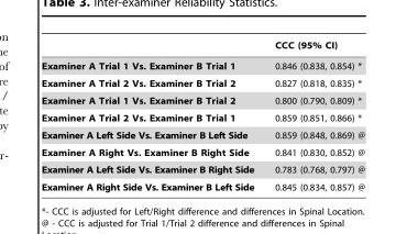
<table><thead><tr><td></td><td>CCC (95% CI)</td></tr></thead><tbody><tr><td>Examiner A Trial 1 Vs. Examiner B Trial 1</td><td>0.846 (0.838, 0.854) *</td></tr><tr><td>Examiner A Trial 2 Vs. Examiner B Trial 2</td><td>0.827 (0.818, 0.835) *</td></tr><tr><td>Examiner A Trial 1 Vs. Examiner B Trial 2</td><td>0.800 (0.790, 0.809) *</td></tr><tr><td>Examiner A Trial 2 Vs. Examiner B Trial 1</td><td>0.859 (0.851, 0.866) *</td></tr><tr><td>Examiner A Left Side Vs. Examiner B Left Side</td><td>0.859 (0.848, 0.869) @</td></tr><tr><td>Examiner A Right Vs. Examiner B Right Side</td><td>0.841 (0.830, 0.852) @</td></tr><tr><td>Examiner A Left Side Vs. Examiner B Right Side</td><td>0.783 (0.768, 0.797) @</td></tr><tr><td>Examiner A Right Side Vs. Examiner B Left Side</td><td>0.845 (0.834, 0.857) @</td></tr></tbody></table>